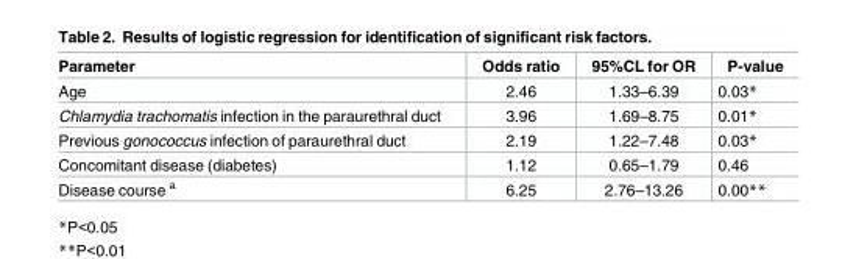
<table><thead><tr><td>Parameter</td><td>Odds ratio</td><td>95%CL for OR</td><td>P-value</td></tr></thead><tbody><tr><td>Age</td><td>2.46</td><td>1.33–6.39</td><td>0.03*</td></tr><tr><td>Chlamydia trachomatis infection in the paraurethral duct</td><td>3.96</td><td>1.69–8.75</td><td>0.01*</td></tr><tr><td>Previous gonococcus infection of paraurethral duct</td><td>2.19</td><td>1.22–7.48</td><td>0.03*</td></tr><tr><td>Concomitant disease (diabetes)</td><td>1.12</td><td>0.65–1.79</td><td>0.46</td></tr><tr><td>Disease course <sup>a</sup></td><td>6.25</td><td>2.76–13.26</td><td>0.00**</td></tr></tbody></table>